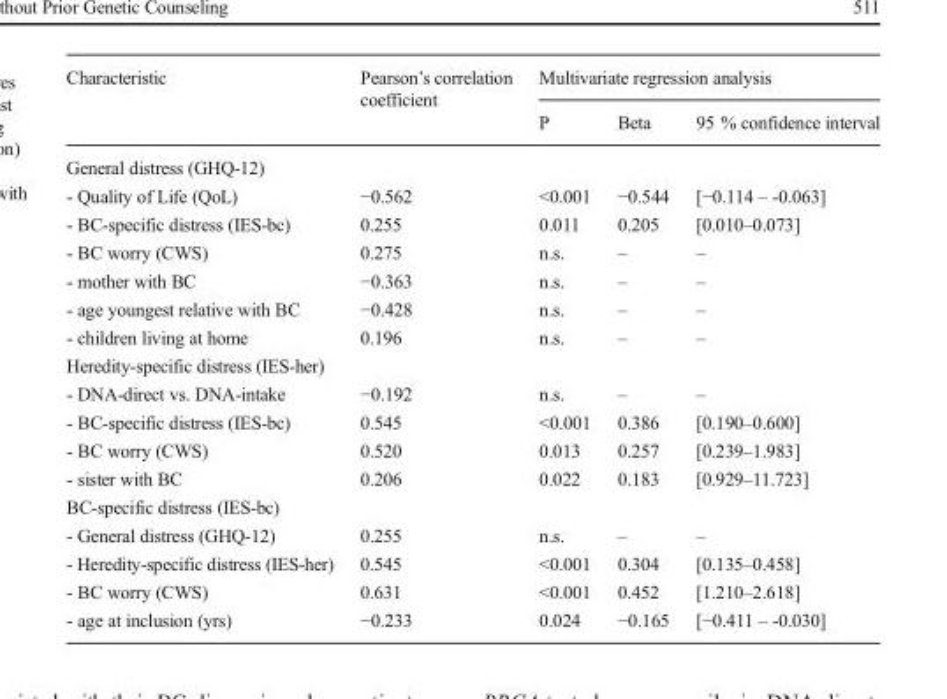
<table><thead><tr><td rowspan="2">Characteristic</td><td rowspan="2">Pearson’s correlation coefficient</td><td colspan="3">Multivariate regression analysis</td></tr><tr><td>P</td><td>Beta</td><td>95 % confidence interval</td></tr></thead><tbody><tr><td colspan="5">General distress (GHQ-12)</td></tr><tr><td>- Quality of Life (QoL)</td><td>−0.562</td><td>&lt;0.001</td><td>−0.544</td><td>[−0.114 – -0.063]</td></tr><tr><td>- BC-specific distress (IES-bc)</td><td>0.255</td><td>0.011</td><td>0.205</td><td>[0.010–0.073]</td></tr><tr><td>- BC worry (CWS)</td><td>0.275</td><td>n.s.</td><td>–</td><td>–</td></tr><tr><td>- mother with BC</td><td>−0.363</td><td>n.s.</td><td>–</td><td>–</td></tr><tr><td>- age youngest relative with BC</td><td>−0.428</td><td>n.s.</td><td>–</td><td>–</td></tr><tr><td>- children living at home</td><td>0.196</td><td>n.s.</td><td>–</td><td>–</td></tr><tr><td colspan="5">Heredity-specific distress (IES-her)</td></tr><tr><td>- DNA-direct vs. DNA-intake</td><td>−0.192</td><td>n.s.</td><td>–</td><td>–</td></tr><tr><td>- BC-specific distress (IES-bc)</td><td>0.545</td><td>&lt;0.001</td><td>0.386</td><td>[0.190–0.600]</td></tr><tr><td>- BC worry (CWS)</td><td>0.520</td><td>0.013</td><td>0.257</td><td>[0.239–1.983]</td></tr><tr><td>- sister with BC</td><td>0.206</td><td>0.022</td><td>0.183</td><td>[0.929–11.723]</td></tr><tr><td colspan="5">BC-specific distress (IES-bc)</td></tr><tr><td>- General distress (GHQ-12)</td><td>0.255</td><td>n.s.</td><td>–</td><td>–</td></tr><tr><td>- Heredity-specific distress (IES-her)</td><td>0.545</td><td>&lt;0.001</td><td>0.304</td><td>[0.135–0.458]</td></tr><tr><td>- BC worry (CWS)</td><td>0.631</td><td>&lt;0.001</td><td>0.452</td><td>[1.210–2.618]</td></tr><tr><td>- age at inclusion (yrs)</td><td>−0.233</td><td>0.024</td><td>−0.165</td><td>[−0.411 – -0.030]</td></tr></tbody></table>